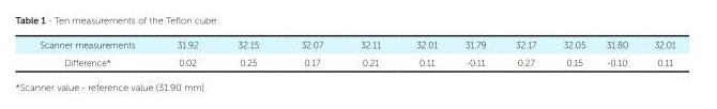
<table><tbody><tr><td>Scanner measurements</td><td>31.92</td><td>32.15</td><td>32.07</td><td>32.11</td><td>32.01</td><td>31.79</td><td>32.17</td><td>32.05</td><td>31.80</td><td>32.01</td></tr><tr><td>Difference*</td><td>0.02</td><td>0.25</td><td>0.17</td><td>0.21</td><td>0.11</td><td>-0.11</td><td>0.27</td><td>0.15</td><td>-0.10</td><td>0.11</td></tr></tbody></table>